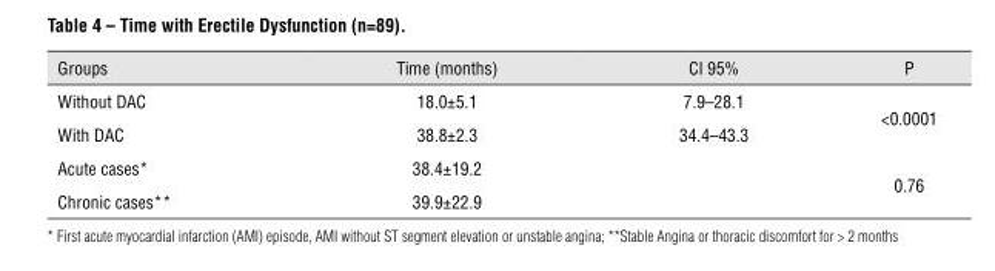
<table><thead><tr><td>Groups</td><td>Time (months)</td><td>CI 95%</td><td>P</td></tr></thead><tbody><tr><td>Without DAC</td><td>18.0±5.1</td><td>7.9–28.1</td><td rowspan="2">&lt;0.0001</td></tr><tr><td>With DAC</td><td>38.8±2.3</td><td>34.4–43.3</td></tr><tr><td>Acute cases*</td><td>38.4±19.2</td><td></td><td rowspan="2">0.76</td></tr><tr><td>Chronic cases**</td><td>39.9±22.9</td><td></td></tr></tbody></table>